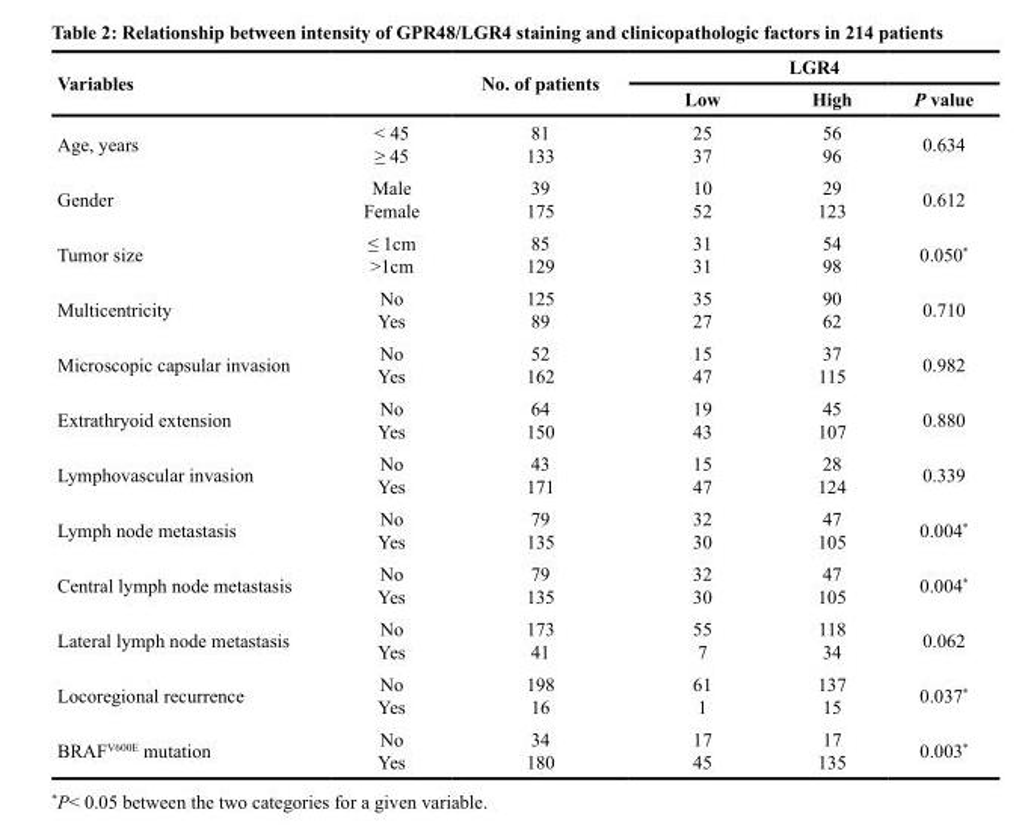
<table><thead><tr><td rowspan="2">Variables</td><td rowspan="2"></td><td rowspan="2">No. of patients</td><td colspan="3">LGR4</td></tr><tr><td>Low</td><td>High</td><td>P value</td></tr></thead><tbody><tr><td>Age, years</td><td>&lt; 45 ≥ 45</td><td>81 133</td><td>25 37</td><td>56 96</td><td>0.634</td></tr><tr><td>Gender</td><td>Male Female</td><td>39 175</td><td>10 52</td><td>29 123</td><td>0.612</td></tr><tr><td>Tumor size</td><td>≤ 1cm &gt;1cm</td><td>85 129</td><td>31 31</td><td>54 98</td><td>0.050*</td></tr><tr><td>Multicentricity</td><td>No Yes</td><td>125 89</td><td>35 27</td><td>90 62</td><td>0.710</td></tr><tr><td>Microscopic capsular invasion</td><td>No Yes</td><td>52 162</td><td>15 47</td><td>37 115</td><td>0.982</td></tr><tr><td>Extrathryoid extension</td><td>No Yes</td><td>64 150</td><td>19 43</td><td>45 107</td><td>0.880</td></tr><tr><td>Lymphovascular invasion</td><td>No Yes</td><td>43 171</td><td>15 47</td><td>28 124</td><td>0.339</td></tr><tr><td>Lymph node metastasis</td><td>No Yes</td><td>79 135</td><td>32 30</td><td>47 105</td><td>0.004*</td></tr><tr><td>Central lymph node metastasis</td><td>No Yes</td><td>79 135</td><td>32 30</td><td>47 105</td><td>0.004*</td></tr><tr><td>Lateral lymph node metastasis</td><td>No Yes</td><td>173 41</td><td>55 7</td><td>118 34</td><td>0.062</td></tr><tr><td>Locoregional recurrence</td><td>No Yes</td><td>198 16</td><td>61 1</td><td>137 15</td><td>0.037*</td></tr><tr><td>BRAF<sup>V600E</sup> mutation</td><td>No Yes</td><td>34 180</td><td>17 45</td><td>17 135</td><td>0.003*</td></tr></tbody></table>